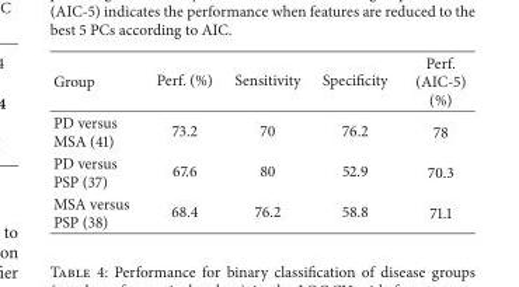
<table><thead><tr><td>Group</td><td>Perf. (%)</td><td>Sensitivity</td><td>Specificity</td><td>Perf. (AIC-5) (%)</td></tr></thead><tbody><tr><td>PD versus MSA (41)</td><td>73.2</td><td>70</td><td>76.2</td><td>78</td></tr><tr><td>PD versus PSP (37)</td><td>67.6</td><td>80</td><td>52.9</td><td>70.3</td></tr><tr><td>MSA versus PSP (38)</td><td>68.4</td><td>76.2</td><td>58.8</td><td>71.1</td></tr></tbody></table>